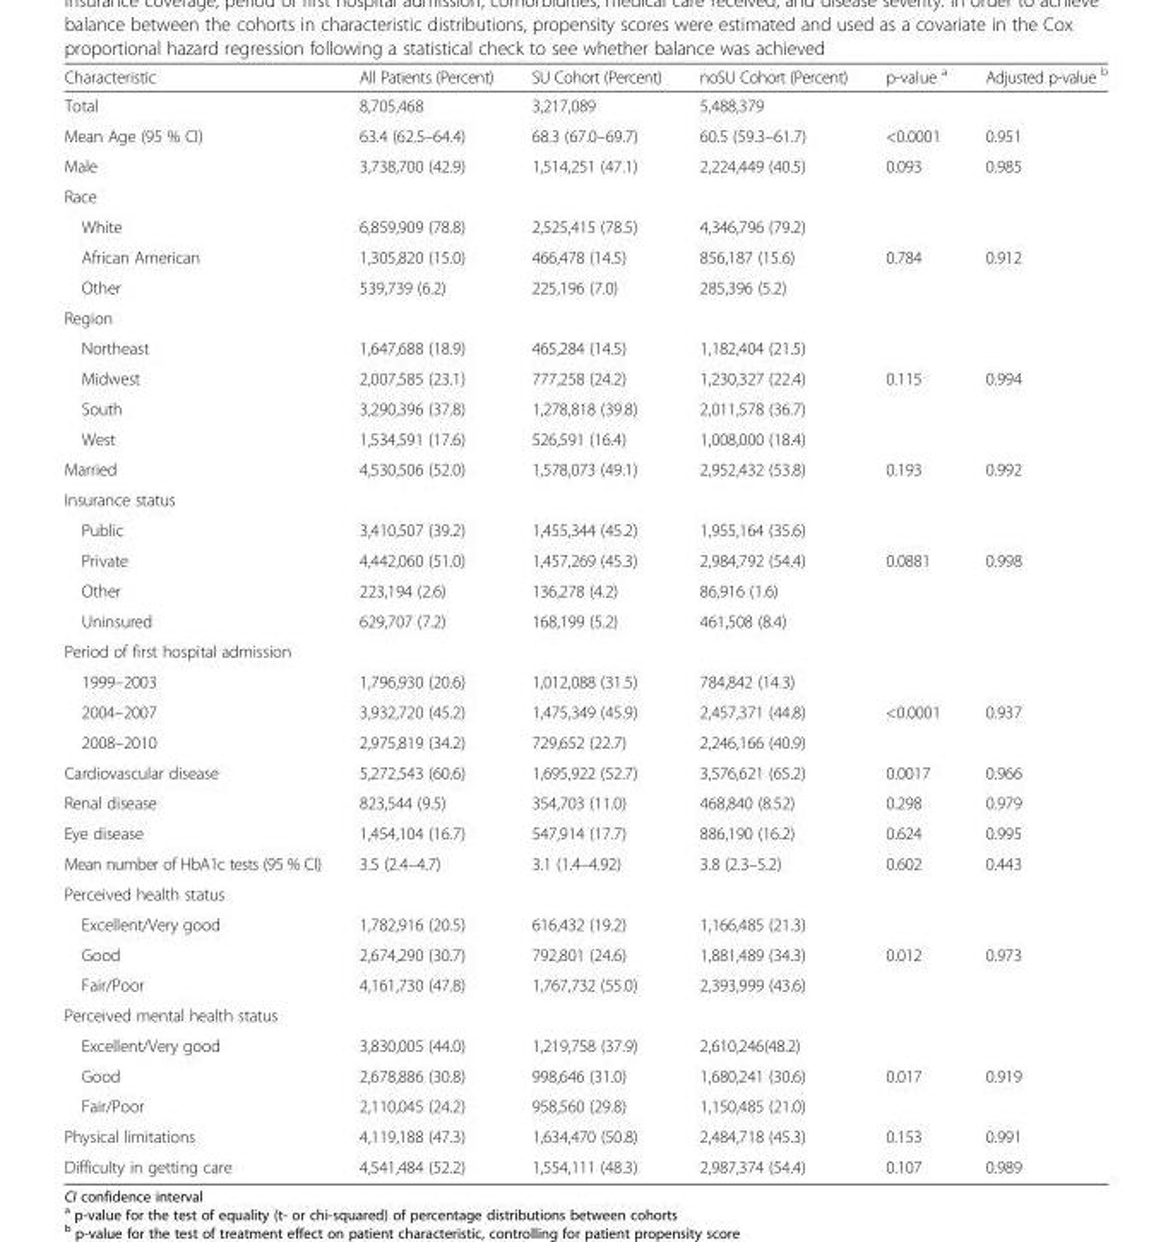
<table><thead><tr><td>Characteristic</td><td>All Patients (Percent)</td><td>SU Cohort (Percent)</td><td>noSU Cohort (Percent)</td><td>p-value <sup>a</sup></td><td>Adjusted p-value <sup>b</sup></td></tr></thead><tbody><tr><td>Total</td><td>8,705,468</td><td>3,217,089</td><td>5,488,379</td><td></td><td></td></tr><tr><td>Mean Age (95 % CI)</td><td>63.4 (62.5–64.4)</td><td>68.3 (67.0–69.7)</td><td>60.5 (59.3–61.7)</td><td>&lt;0.0001</td><td>0.951</td></tr><tr><td>Male</td><td>3,738,700 (42.9)</td><td>1,514,251 (47.1)</td><td>2,224,449 (40.5)</td><td>0.093</td><td>0.985</td></tr><tr><td colspan="6">Race</td></tr><tr><td>White</td><td>6,859,909 (78.8)</td><td>2,525,415 (78.5)</td><td>4,346,796 (79.2)</td><td></td><td></td></tr><tr><td>African American</td><td>1,305,820 (15.0)</td><td>466,478 (14.5)</td><td>856,187 (15.6)</td><td>0.784</td><td>0.912</td></tr><tr><td>Other</td><td>539,739 (6.2)</td><td>225,196 (7.0)</td><td>285,396 (5.2)</td><td></td><td></td></tr><tr><td colspan="6">Region</td></tr><tr><td>Northeast</td><td>1,647,688 (18.9)</td><td>465,284 (14.5)</td><td>1,182,404 (21.5)</td><td></td><td></td></tr><tr><td>Midwest</td><td>2,007,585 (23.1)</td><td>777,258 (24.2)</td><td>1,230,327 (22.4)</td><td>0.115</td><td>0.994</td></tr><tr><td>South</td><td>3,290,396 (37.8)</td><td>1,278,818 (39.8)</td><td>2,011,578 (36.7)</td><td></td><td></td></tr><tr><td>West</td><td>1,534,591 (17.6)</td><td>526,591 (16.4)</td><td>1,008,000 (18.4)</td><td></td><td></td></tr><tr><td>Married</td><td>4,530,506 (52.0)</td><td>1,578,073 (49.1)</td><td>2,952,432 (53.8)</td><td>0.193</td><td>0.992</td></tr><tr><td colspan="6">Insurance status</td></tr><tr><td>Public</td><td>3,410,507 (39.2)</td><td>1,455,344 (45.2)</td><td>1,955,164 (35.6)</td><td></td><td></td></tr><tr><td>Private</td><td>4,442,060 (51.0)</td><td>1,457,269 (45.3)</td><td>2,984,792 (54.4)</td><td>0.0881</td><td>0.998</td></tr><tr><td>Other</td><td>223,194 (2.6)</td><td>136,278 (4.2)</td><td>86,916 (1.6)</td><td></td><td></td></tr><tr><td>Uninsured</td><td>629,707 (7.2)</td><td>168,199 (5.2)</td><td>461,508 (8.4)</td><td></td><td></td></tr><tr><td colspan="6">Period of first hospital admission</td></tr><tr><td>1999–2003</td><td>1,796,930 (20.6)</td><td>1,012,088 (31.5)</td><td>784,842 (14.3)</td><td></td><td></td></tr><tr><td>2004–2007</td><td>3,932,720 (45.2)</td><td>1,475,349 (45.9)</td><td>2,457,371 (44.8)</td><td>&lt;0.0001</td><td>0.937</td></tr><tr><td>2008–2010</td><td>2,975,819 (34.2)</td><td>729,652 (22.7)</td><td>2,246,166 (40.9)</td><td></td><td></td></tr><tr><td>Cardiovascular disease</td><td>5,272,543 (60.6)</td><td>1,695,922 (52.7)</td><td>3,576,621 (65.2)</td><td>0.0017</td><td>0.966</td></tr><tr><td>Renal disease</td><td>823,544 (9.5)</td><td>354,703 (11.0)</td><td>468,840 (8.52)</td><td>0.298</td><td>0.979</td></tr><tr><td>Eye disease</td><td>1,454,104 (16.7)</td><td>547,914 (17.7)</td><td>886,190 (16.2)</td><td>0.624</td><td>0.995</td></tr><tr><td>Mean number of HbA1c tests (95 % CI)</td><td>3.5 (2.4–4.7)</td><td>3.1 (1.4–4.92)</td><td>3.8 (2.3–5.2)</td><td>0.602</td><td>0.443</td></tr><tr><td colspan="6">Perceived health status</td></tr><tr><td>Excellent/Very good</td><td>1,782,916 (20.5)</td><td>616,432 (19.2)</td><td>1,166,485 (21.3)</td><td></td><td></td></tr><tr><td>Good</td><td>2,674,290 (30.7)</td><td>792,801 (24.6)</td><td>1,881,489 (34.3)</td><td>0.012</td><td>0.973</td></tr><tr><td>Fair/Poor</td><td>4,161,730 (47.8)</td><td>1,767,732 (55.0)</td><td>2,393,999 (43.6)</td><td></td><td></td></tr><tr><td colspan="6">Perceived mental health status</td></tr><tr><td>Excellent/Very good</td><td>3,830,005 (44.0)</td><td>1,219,758 (37.9)</td><td>2,610,246(48.2)</td><td></td><td></td></tr><tr><td>Good</td><td>2,678,886 (30.8)</td><td>998,646 (31.0)</td><td>1,680,241 (30.6)</td><td>0.017</td><td>0.919</td></tr><tr><td>Fair/Poor</td><td>2,110,045 (24.2)</td><td>958,560 (29.8)</td><td>1,150,485 (21.0)</td><td></td><td></td></tr><tr><td>Physical limitations</td><td>4,119,188 (47.3)</td><td>1,634,470 (50.8)</td><td>2,484,718 (45.3)</td><td>0.153</td><td>0.991</td></tr><tr><td>Difficulty in getting care</td><td>4,541,484 (52.2)</td><td>1,554,111 (48.3)</td><td>2,987,374 (54.4)</td><td>0.107</td><td>0.989</td></tr></tbody></table>